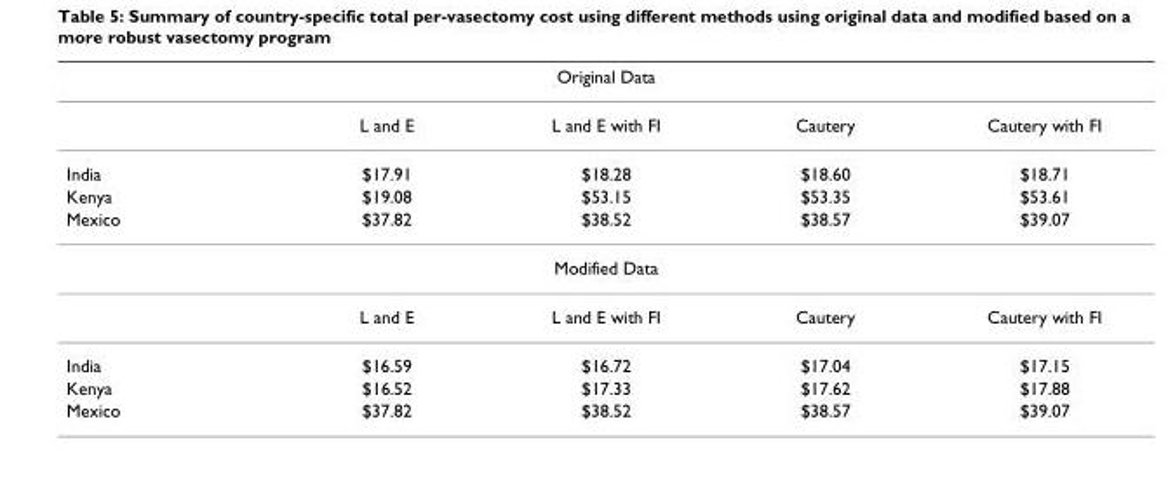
<table><thead><tr><td colspan="5">Original Data</td></tr><tr><td></td><td>L and E</td><td>L and E with FI</td><td>Cautery</td><td>Cautery with FI</td></tr></thead><tbody><tr><td>India</td><td>$17.91</td><td>$18.28</td><td>$18.60</td><td>$18.71</td></tr><tr><td>Kenya</td><td>$19.08</td><td>$53.15</td><td>$53.35</td><td>$53.61</td></tr><tr><td>Mexico</td><td>$37.82</td><td>$38.52</td><td>$38.57</td><td>$39.07</td></tr><tr><td colspan="5">Modified Data</td></tr><tr><td></td><td>L and E</td><td>L and E with FI</td><td>Cautery</td><td>Cautery with FI</td></tr><tr><td>India</td><td>$16.59</td><td>$16.72</td><td>$17.04</td><td>$17.15</td></tr><tr><td>Kenya</td><td>$16.52</td><td>$17.33</td><td>$17.62</td><td>$17.88</td></tr><tr><td>Mexico</td><td>$37.82</td><td>$38.52</td><td>$38.57</td><td>$39.07</td></tr></tbody></table>